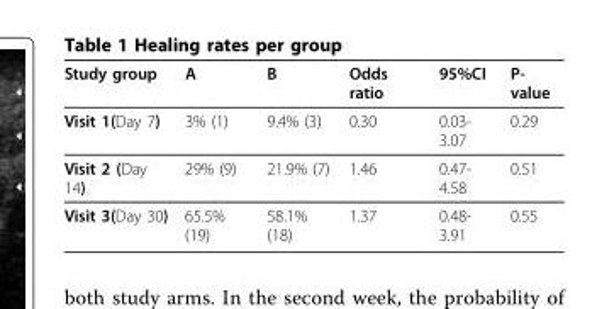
<table><thead><tr><td>Study group</td><td>A</td><td>B</td><td>Odds ratio</td><td>95%CI</td><td>P- value</td></tr></thead><tbody><tr><td>Visit 1(Day 7)</td><td>3% (1)</td><td>9.4% (3)</td><td>0.30</td><td>0.03- 3.07</td><td>0.29</td></tr><tr><td>Visit 2 (Day 14)</td><td>29% (9)</td><td>21.9% (7)</td><td>1.46</td><td>0.47- 4.58</td><td>0.51</td></tr><tr><td>Visit 3(Day 30)</td><td>65.5% (19)</td><td>58.1% (18)</td><td>1.37</td><td>0.48- 3.91</td><td>0.55</td></tr></tbody></table>